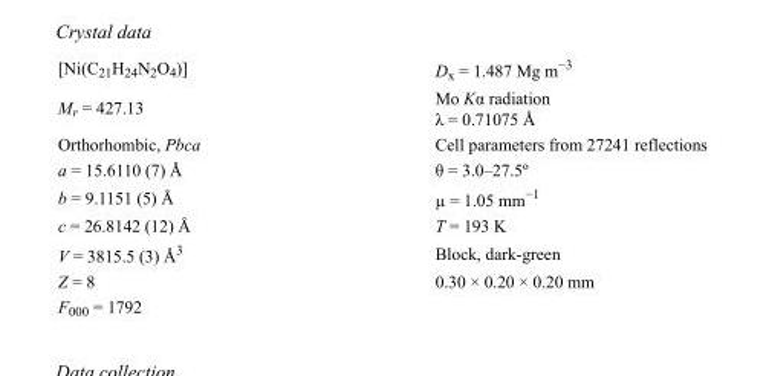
<table><tbody><tr><td>[Ni(C<sub>21</sub>H<sub>24</sub>N<sub>2</sub>O<sub>4</sub>)]</td><td>D<sub>x</sub> = 1.487 Mg m<sup>−3</sup></td></tr><tr><td>M<sub>r</sub> = 427.13</td><td>Mo Kα radiation λ = 0.71075 Å</td></tr><tr><td>Orthorhombic, Pbca</td><td>Cell parameters from 27241 reflections</td></tr><tr><td>a = 15.6110 (7) Å</td><td>θ = 3.0–27.5º</td></tr><tr><td>b = 9.1151 (5) Å</td><td>µ = 1.05 mm<sup>−1</sup></td></tr><tr><td>c = 26.8142 (12) Å</td><td>T = 193 K</td></tr><tr><td>V = 3815.5 (3) Å<sup>3</sup></td><td>Block, dark-green</td></tr><tr><td>Z = 8</td><td>0.30 × 0.20 × 0.20 mm</td></tr><tr><td>F000 = 1792</td><td></td></tr></tbody></table>